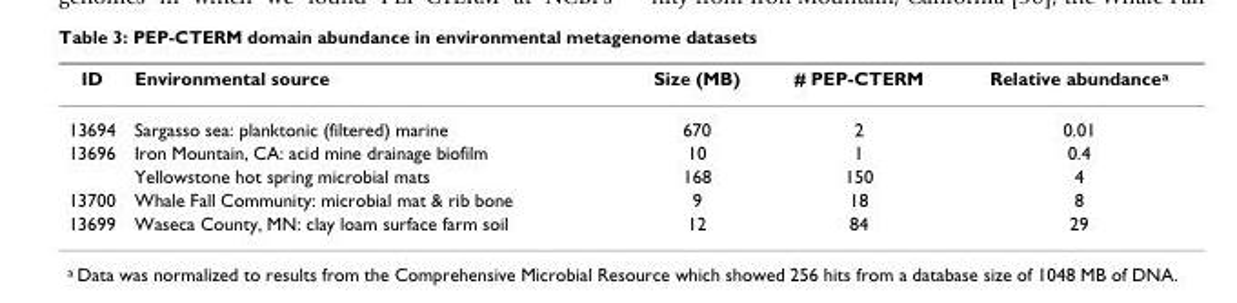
<table><thead><tr><td>ID</td><td>Environmental source</td><td>Size (MB)</td><td># PEP-CTERM</td><td>Relative abundancea</td></tr></thead><tbody><tr><td>13694</td><td>Sargasso sea: planktonic (filtered) marine</td><td>670</td><td>2</td><td>0.01</td></tr><tr><td rowspan="2">13696</td><td>Iron Mountain, CA: acid mine drainage biofilm</td><td>10</td><td>1</td><td>0.4</td></tr><tr><td>Yellowstone hot spring microbial mats</td><td>168</td><td>150</td><td>4</td></tr><tr><td>13700</td><td>Whale Fall Community: microbial mat &amp; rib bone</td><td>9</td><td>18</td><td>8</td></tr><tr><td>13699</td><td>Waseca County, MN: clay loam surface farm soil</td><td>12</td><td>84</td><td>29</td></tr></tbody></table>